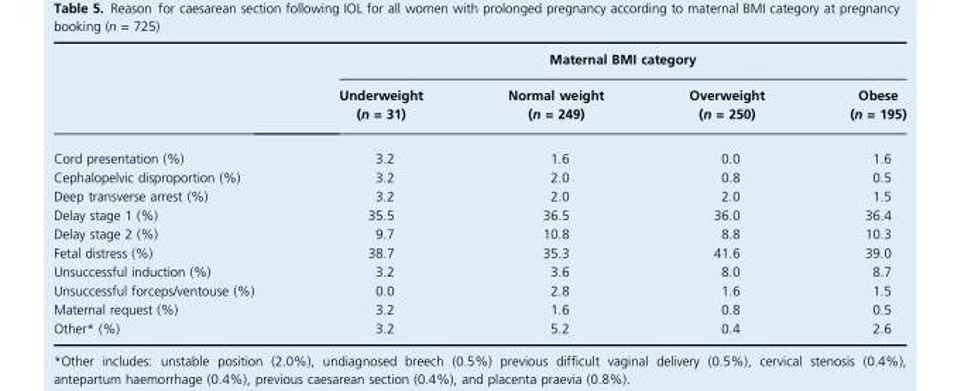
<table><thead><tr><td rowspan="2"></td><td colspan="4">Maternal BMI category</td></tr><tr><td>Underweight (n = 31)</td><td>Normal weight (n = 249)</td><td>Overweight (n = 250)</td><td>Obese (n = 195)</td></tr></thead><tbody><tr><td>Cord presentation (%)</td><td>3.2</td><td>1.6</td><td>0.0</td><td>1.6</td></tr><tr><td>Cephalopelvic disproportion (%)</td><td>3.2</td><td>2.0</td><td>0.8</td><td>0.5</td></tr><tr><td>Deep transverse arrest (%)</td><td>3.2</td><td>2.0</td><td>2.0</td><td>1.5</td></tr><tr><td>Delay stage 1 (%)</td><td>35.5</td><td>36.5</td><td>36.0</td><td>36.4</td></tr><tr><td>Delay stage 2 (%)</td><td>9.7</td><td>10.8</td><td>8.8</td><td>10.3</td></tr><tr><td>Fetal distress (%)</td><td>38.7</td><td>35.3</td><td>41.6</td><td>39.0</td></tr><tr><td>Unsuccessful induction (%)</td><td>3.2</td><td>3.6</td><td>8.0</td><td>8.7</td></tr><tr><td>Unsuccessful forceps/ventouse (%)</td><td>0.0</td><td>2.8</td><td>1.6</td><td>1.5</td></tr><tr><td>Maternal request (%)</td><td>3.2</td><td>1.6</td><td>0.8</td><td>0.5</td></tr><tr><td>Other* (%)</td><td>3.2</td><td>5.2</td><td>0.4</td><td>2.6</td></tr></tbody></table>